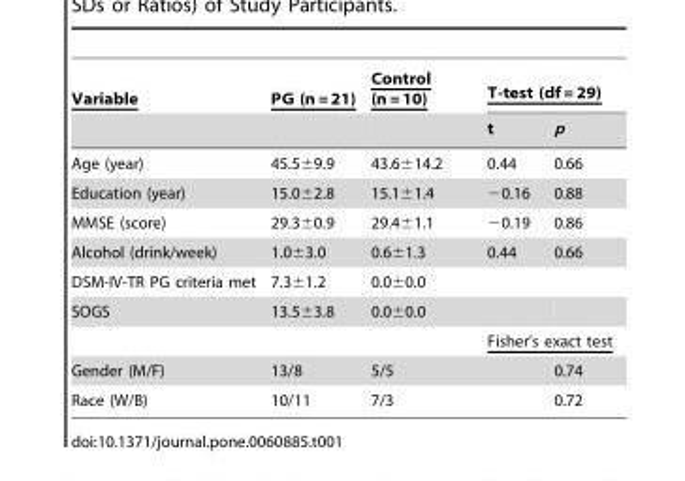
<table><thead><tr><td rowspan="2">Variable</td><td rowspan="2">PG (n = 21)</td><td rowspan="2">Control (n = 10)</td><td colspan="2">T-test (df = 29)</td></tr><tr><td>t</td><td>p</td></tr></thead><tbody><tr><td>Age (year)</td><td>45.5±9.9</td><td>43.6±14.2</td><td>0.44</td><td>0.66</td></tr><tr><td>Education (year)</td><td>15.0±2.8</td><td>15.1±1.4</td><td>−0.16</td><td>0.88</td></tr><tr><td>MMSE (score)</td><td>29.3±0.9</td><td>29.4±1.1</td><td>−0.19</td><td>0.86</td></tr><tr><td>Alcohol (drink/week)</td><td>1.0±3.0</td><td>0.6±1.3</td><td>0.44</td><td>0.66</td></tr><tr><td>DSM-IV-TR PG criteria met</td><td>7.3±1.2</td><td>0.0±0.0</td><td></td><td></td></tr><tr><td rowspan="2">SOGS</td><td>13.5±3.8</td><td>0.0±0.0</td><td></td><td></td></tr><tr><td></td><td></td><td colspan="2">Fisher’s exact test</td></tr><tr><td>Gender (M/F)</td><td>13/8</td><td>5/5</td><td></td><td>0.74</td></tr><tr><td>Race (W/B)</td><td>10/11</td><td>7/3</td><td></td><td>0.72</td></tr></tbody></table>